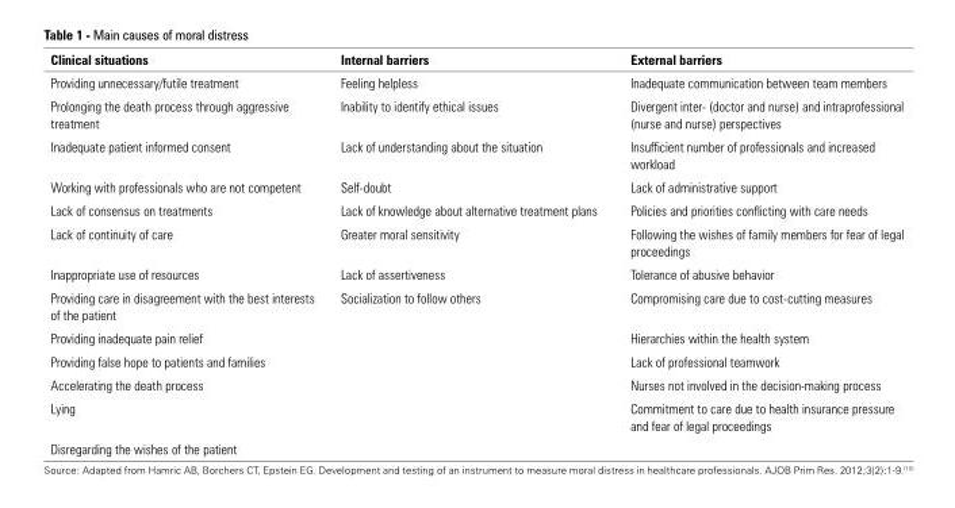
<table><thead><tr><td>Clinical situations</td><td>Internal barriers</td><td>External barriers</td></tr></thead><tbody><tr><td>Providing unnecessary/futile treatment</td><td>Feeling helpless</td><td>Inadequate communication between team members</td></tr><tr><td>Prolonging the death process through aggressive treatment</td><td>Inability to identify ethical issues</td><td>Divergent inter- (doctor and nurse) and intraprofessional (nurse and nurse) perspectives</td></tr><tr><td>Inadequate patient informed consent</td><td>Lack of understanding about the situation</td><td>Insufficient number of professionals and increased workload</td></tr><tr><td>Working with professionals who are not competent</td><td>Self-doubt</td><td>Lack of administrative support</td></tr><tr><td>Lack of consensus on treatments</td><td>Lack of knowledge about alternative treatment plans</td><td>Policies and priorities conflicting with care needs</td></tr><tr><td>Lack of continuity of care</td><td>Greater moral sensitivity</td><td>Following the wishes of family members for fear of legal proceedings</td></tr><tr><td>Inappropriate use of resources</td><td>Lack of assertiveness</td><td>Tolerance of abusive behavior</td></tr><tr><td>Providing care in disagreement with the best interests of the patient</td><td>Socialization to follow others</td><td>Compromising care due to cost-cutting measures</td></tr><tr><td>Providing inadequate pain relief</td><td></td><td>Hierarchies within the health system</td></tr><tr><td>Providing false hope to patients and families</td><td></td><td>Lack of professional teamwork</td></tr><tr><td>Accelerating the death process</td><td></td><td>Nurses not involved in the decision-making process</td></tr><tr><td>Lying</td><td></td><td>Commitment to care due to health insurance pressure and fear of legal proceedings</td></tr><tr><td>Disregarding the wishes of the patient</td><td></td><td></td></tr></tbody></table>